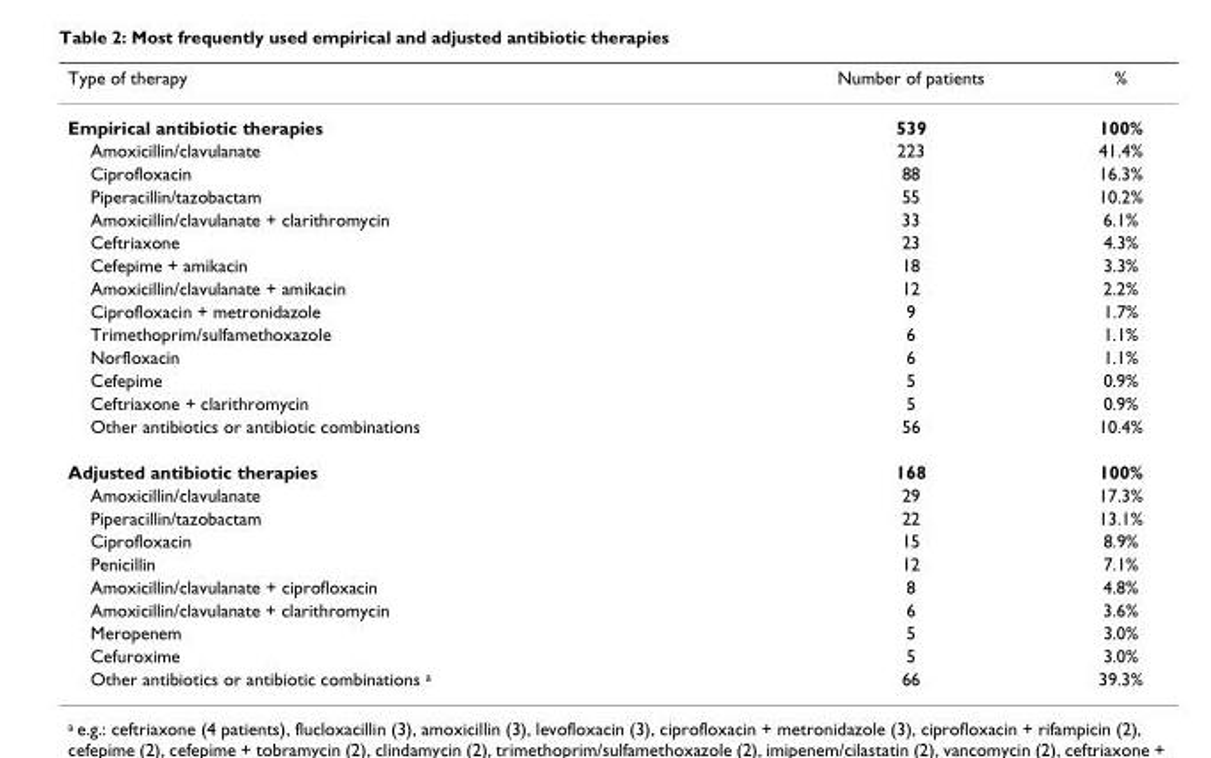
<table><thead><tr><td>Type of therapy</td><td>Number of patients</td><td>%</td></tr></thead><tbody><tr><td>Empirical antibiotic therapies</td><td>539</td><td>100%</td></tr><tr><td>Amoxicillin/clavulanate</td><td>223</td><td>41.4%</td></tr><tr><td>Ciprofloxacin</td><td>88</td><td>16.3%</td></tr><tr><td>Piperacillin/tazobactam</td><td>55</td><td>10.2%</td></tr><tr><td>Amoxicillin/clavulanate + clarithromycin</td><td>33</td><td>6.1%</td></tr><tr><td>Ceftriaxone</td><td>23</td><td>4.3%</td></tr><tr><td>Cefepime + amikacin</td><td>18</td><td>3.3%</td></tr><tr><td>Amoxicillin/clavulanate + amikacin</td><td>12</td><td>2.2%</td></tr><tr><td>Ciprofloxacin + metronidazole</td><td>9</td><td>1.7%</td></tr><tr><td>Trimethoprim/sulfamethoxazole</td><td>6</td><td>1.1%</td></tr><tr><td>Norfloxacin</td><td>6</td><td>1.1%</td></tr><tr><td>Cefepime</td><td>5</td><td>0.9%</td></tr><tr><td>Ceftriaxone + clarithromycin</td><td>5</td><td>0.9%</td></tr><tr><td>Other antibiotics or antibiotic combinations</td><td>56</td><td>10.4%</td></tr><tr><td>Adjusted antibiotic therapies</td><td>168</td><td>100%</td></tr><tr><td>Amoxicillin/clavulanate</td><td>29</td><td>17.3%</td></tr><tr><td>Piperacillin/tazobactam</td><td>22</td><td>13.1%</td></tr><tr><td>Ciprofloxacin</td><td>15</td><td>8.9%</td></tr><tr><td>Penicillin</td><td>12</td><td>7.1%</td></tr><tr><td>Amoxicillin/clavulanate + ciprofloxacin</td><td>8</td><td>4.8%</td></tr><tr><td>Amoxicillin/clavulanate + clarithromycin</td><td>6</td><td>3.6%</td></tr><tr><td>Meropenem</td><td>5</td><td>3.0%</td></tr><tr><td>Cefuroxime</td><td>5</td><td>3.0%</td></tr><tr><td>Other antibiotics or antibiotic combinations <sup>a</sup></td><td>66</td><td>39.3%</td></tr></tbody></table>